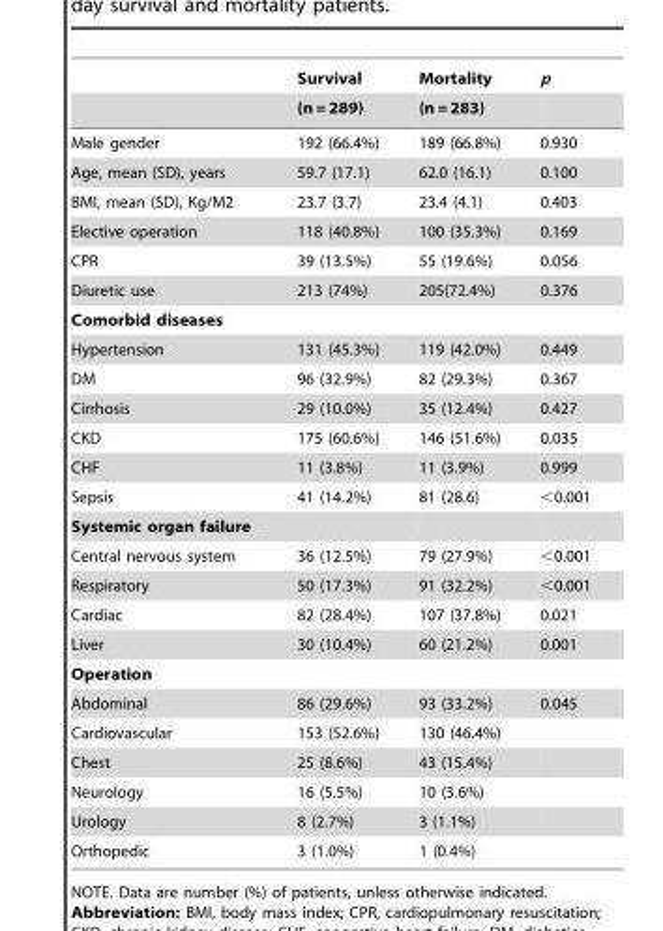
<table><thead><tr><td rowspan="2"></td><td rowspan="2">Survival (n = 289)</td><td rowspan="2">Mortality (n = 283)</td><td rowspan="2">p</td></tr><tr></tr></thead><tbody><tr><td>Male gender</td><td>192 (66.4%)</td><td>189 (66.8%)</td><td>0.930</td></tr><tr><td>Age, mean (SD), years</td><td>59.7 (17.1)</td><td>62.0 (16.1)</td><td>0.100</td></tr><tr><td>BMI, mean (SD), Kg/M2</td><td>23.7 (3.7)</td><td>23.4 (4.1)</td><td>0.403</td></tr><tr><td>Elective operation</td><td>118 (40.8%)</td><td>100 (35.3%)</td><td>0.169</td></tr><tr><td>CPR</td><td>39 (13.5%)</td><td>55 (19.6%)</td><td>0.056</td></tr><tr><td>Diuretic use</td><td>213 (74%)</td><td>205(72.4%)</td><td>0.376</td></tr><tr><td colspan="4">Comorbid diseases</td></tr><tr><td>Hypertension</td><td>131 (45.3%)</td><td>119 (42.0%)</td><td>0.449</td></tr><tr><td>DM</td><td>96 (32.9%)</td><td>82 (29.3%)</td><td>0.367</td></tr><tr><td>Cirrhosis</td><td>29 (10.0%)</td><td>35 (12.4%)</td><td>0.427</td></tr><tr><td>CKD</td><td>175 (60.6%)</td><td>146 (51.6%)</td><td>0.035</td></tr><tr><td>CHF</td><td>11 (3.8%)</td><td>11 (3.9%)</td><td>0.999</td></tr><tr><td>Sepsis</td><td>41 (14.2%)</td><td>81 (28.6)</td><td>&lt;0.001</td></tr><tr><td colspan="4">Systemic organ failure</td></tr><tr><td>Central nervous system</td><td>36 (12.5%)</td><td>79 (27.9%)</td><td>&lt;0.001</td></tr><tr><td>Respiratory</td><td>50 (17.3%)</td><td>91 (32.2%)</td><td>&lt;0.001</td></tr><tr><td>Cardiac</td><td>82 (28.4%)</td><td>107 (37.8%)</td><td>0.021</td></tr><tr><td>Liver</td><td>30 (10.4%)</td><td>60 (21.2%)</td><td>0.001</td></tr><tr><td colspan="4">Operation</td></tr><tr><td>Abdominal</td><td>86 (29.6%)</td><td>93 (33.2%)</td><td>0.045</td></tr><tr><td>Cardiovascular</td><td>153 (52.6%)</td><td>130 (46.4%)</td><td></td></tr><tr><td>Chest</td><td>25 (8.6%)</td><td>43 (15.4%)</td><td></td></tr><tr><td>Neurology</td><td>16 (5.5%)</td><td>10 (3.6%)</td><td></td></tr><tr><td>Urology</td><td>8 (2.7%)</td><td>3 (1.1%)</td><td></td></tr><tr><td>Orthopedic</td><td>3 (1.0%)</td><td>1 (0.4%)</td><td></td></tr></tbody></table>